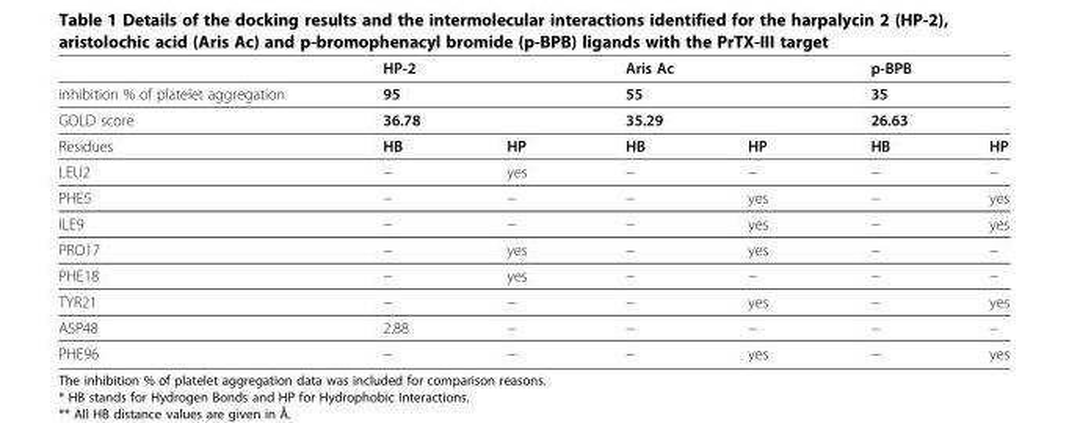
<table><thead><tr><td rowspan="4">inhibition % of platelet aggregation GOLD score Residues</td><td rowspan="3" colspan="2">HP-2 95 36.78</td><td rowspan="3" colspan="2">Aris Ac 55 35.29</td><td rowspan="3" colspan="2">p-BPB 35 26.63</td></tr><tr></tr><tr></tr><tr><td>HB</td><td>HP</td><td>HB</td><td>HP</td><td>HB</td><td>HP</td></tr></thead><tbody><tr><td>LEU2</td><td>−</td><td>yes</td><td>−</td><td>−</td><td>−</td><td>−</td></tr><tr><td>PHE5</td><td>−</td><td>−</td><td>−</td><td>yes</td><td>−</td><td>yes</td></tr><tr><td>ILE9</td><td>−</td><td>−</td><td>−</td><td>yes</td><td>−</td><td>yes</td></tr><tr><td>PRO17</td><td>−</td><td>yes</td><td>−</td><td>yes</td><td>−</td><td>−</td></tr><tr><td>PHE18</td><td>−</td><td>yes</td><td>−</td><td>−</td><td>−</td><td>−</td></tr><tr><td>TYR21</td><td>−</td><td>−</td><td>−</td><td>yes</td><td>−</td><td>yes</td></tr><tr><td>ASP48</td><td>2.88</td><td>−</td><td>−</td><td>−</td><td>−</td><td>−</td></tr><tr><td>PHE96</td><td>−</td><td>−</td><td>−</td><td>yes</td><td>−</td><td>yes</td></tr></tbody></table>